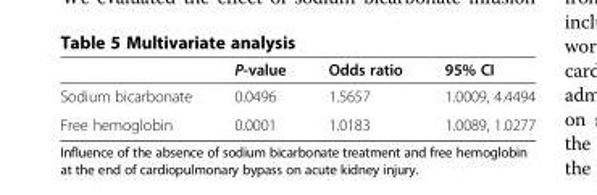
<table><thead><tr><td></td><td>P-value</td><td>Odds ratio</td><td>95% CI</td></tr></thead><tbody><tr><td>Sodium bicarbonate</td><td>0.0496</td><td>1.5657</td><td>1.0009, 4.4494</td></tr><tr><td>Free hemoglobin</td><td>0.0001</td><td>1.0183</td><td>1.0089, 1.0277</td></tr></tbody></table>